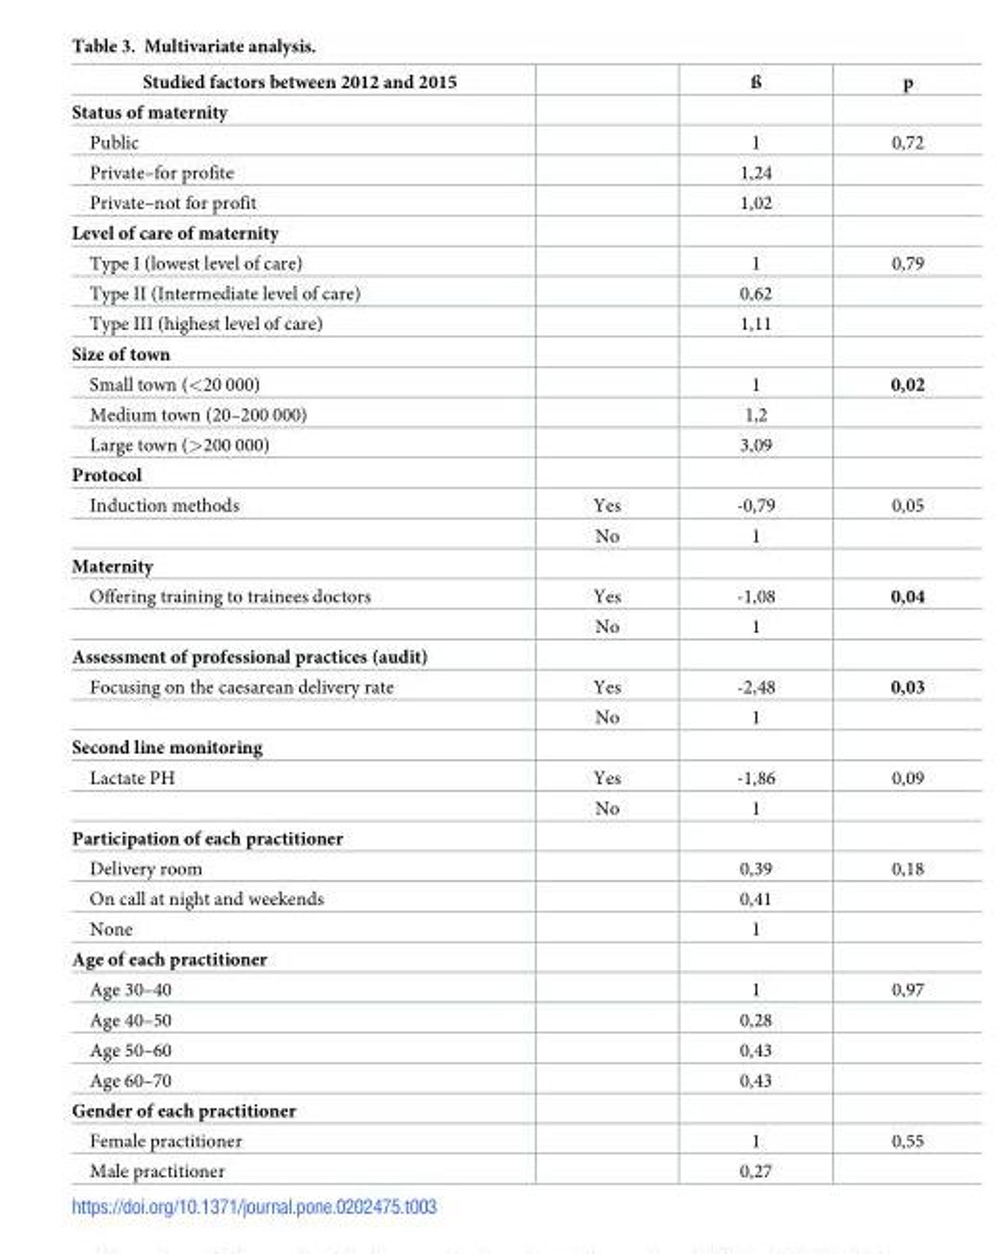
<table><thead><tr><td>Studied factors between 2012 and 2015</td><td></td><td>ß</td><td>p</td></tr></thead><tbody><tr><td colspan="4">Status of maternity</td></tr><tr><td>Public</td><td></td><td>1</td><td>0,72</td></tr><tr><td>Private–for profite</td><td></td><td>1,24</td><td></td></tr><tr><td>Private–not for profit</td><td></td><td>1,02</td><td></td></tr><tr><td colspan="4">Level of care of maternity</td></tr><tr><td>Type I (lowest level of care)</td><td></td><td>1</td><td>0,79</td></tr><tr><td>Type II (Intermediate level of care)</td><td></td><td>0,62</td><td></td></tr><tr><td>Type III (highest level of care)</td><td></td><td>1,11</td><td></td></tr><tr><td colspan="4">Size of town</td></tr><tr><td>Small town (&lt;20 000)</td><td></td><td>1</td><td>0,02</td></tr><tr><td>Medium town (20–200 000)</td><td></td><td>1,2</td><td></td></tr><tr><td>Large town (&gt;200 000)</td><td></td><td>3,09</td><td></td></tr><tr><td colspan="4">Protocol</td></tr><tr><td rowspan="2">Induction methods</td><td>Yes</td><td>-0,79</td><td>0,05</td></tr><tr><td>No</td><td>1</td><td></td></tr><tr><td colspan="4">Maternity</td></tr><tr><td rowspan="2">Offering training to trainees doctors</td><td>Yes</td><td>-1,08</td><td>0,04</td></tr><tr><td>No</td><td>1</td><td></td></tr><tr><td colspan="4">Assessment of professional practices (audit)</td></tr><tr><td rowspan="2">Focusing on the caesarean delivery rate</td><td>Yes</td><td>-2,48</td><td>0,03</td></tr><tr><td>No</td><td>1</td><td></td></tr><tr><td colspan="4">Second line monitoring</td></tr><tr><td rowspan="2">Lactate PH</td><td>Yes</td><td>-1,86</td><td>0,09</td></tr><tr><td>No</td><td>1</td><td></td></tr><tr><td colspan="4">Participation of each practitioner</td></tr><tr><td>Delivery room</td><td></td><td>0,39</td><td>0,18</td></tr><tr><td>On call at night and weekends</td><td></td><td>0,41</td><td></td></tr><tr><td>None</td><td></td><td>1</td><td></td></tr><tr><td colspan="4">Age of each practitioner</td></tr><tr><td>Age 30–40</td><td></td><td>1</td><td>0,97</td></tr><tr><td>Age 40–50</td><td></td><td>0,28</td><td></td></tr><tr><td>Age 50–60</td><td></td><td>0,43</td><td></td></tr><tr><td>Age 60–70</td><td></td><td>0,43</td><td></td></tr><tr><td colspan="4">Gender of each practitioner</td></tr><tr><td>Female practitioner</td><td></td><td>1</td><td>0,55</td></tr><tr><td>Male practitioner</td><td></td><td>0,27</td><td></td></tr></tbody></table>